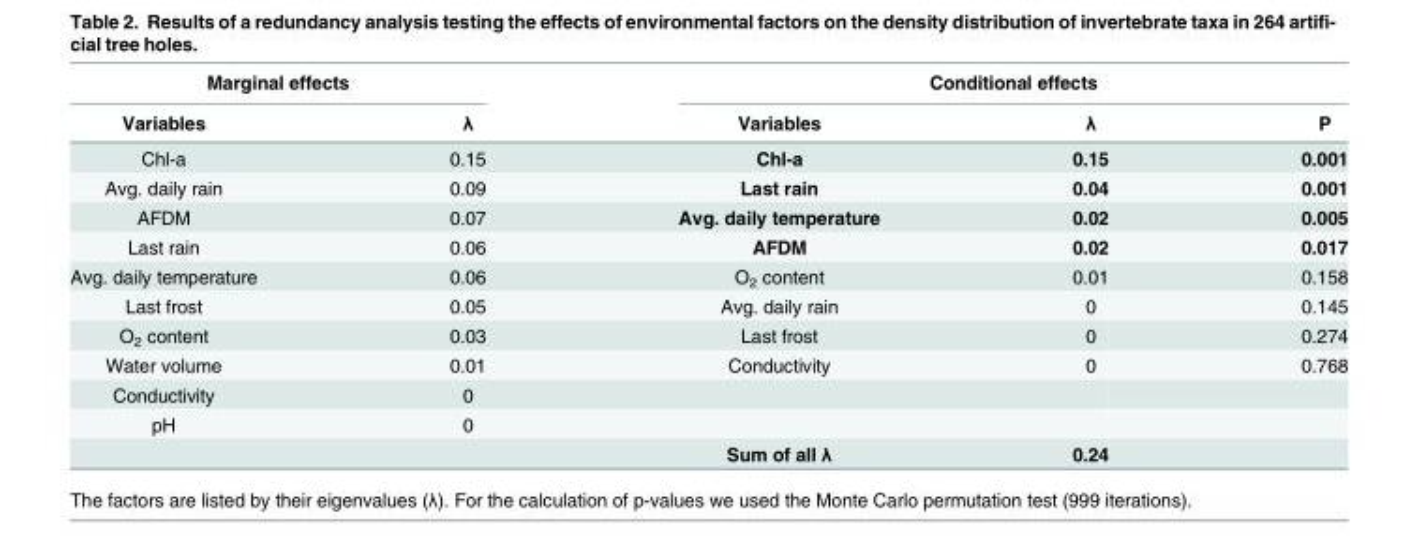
<table><thead><tr><td colspan="2">Marginal effects</td><td colspan="3">Conditional effects</td></tr><tr><td>Variables</td><td>λ</td><td>Variables</td><td>λ</td><td>P</td></tr></thead><tbody><tr><td>Chl-a</td><td>0.15</td><td>Chl-a</td><td>0.15</td><td>0.001</td></tr><tr><td>Avg. daily rain</td><td>0.09</td><td>Last rain</td><td>0.04</td><td>0.001</td></tr><tr><td>AFDM</td><td>0.07</td><td>Avg. daily temperature</td><td>0.02</td><td>0.005</td></tr><tr><td>Last rain</td><td>0.06</td><td>AFDM</td><td>0.02</td><td>0.017</td></tr><tr><td>Avg. daily temperature</td><td>0.06</td><td>O<sub>2</sub> content</td><td>0.01</td><td>0.158</td></tr><tr><td>Last frost</td><td>0.05</td><td>Avg. daily rain</td><td>0</td><td>0.145</td></tr><tr><td>O<sub>2</sub> content</td><td>0.03</td><td>Last frost</td><td>0</td><td>0.274</td></tr><tr><td>Water volume</td><td>0.01</td><td>Conductivity</td><td>0</td><td>0.768</td></tr><tr><td>Conductivity</td><td>0</td><td></td><td></td><td></td></tr><tr><td rowspan="2">pH</td><td>0</td><td></td><td></td><td></td></tr><tr><td></td><td>Sum of all λ</td><td>0.24</td><td></td></tr></tbody></table>